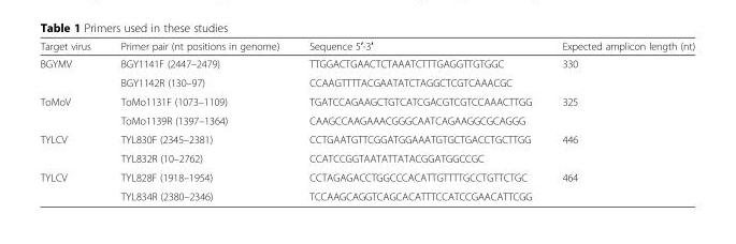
<table><thead><tr><td>Target virus</td><td>Primer pair (nt positions in genome)</td><td>Sequence 5′-3′</td><td>Expected amplicon length (nt)</td></tr></thead><tbody><tr><td rowspan="2">BGYMV</td><td>BGY1141F (2447–2479)</td><td>TTGGACTGAACTCTAAATCTTTGAGGTTGTGGC</td><td rowspan="2">330</td></tr><tr><td>BGY1142R (130–97)</td><td>CCAAGTTTTACGAATATCTAGGCTCGTCAAACGC</td></tr><tr><td rowspan="2">ToMoV</td><td>ToMo1131F (1073–1109)</td><td>TGATCCAGAAGCTGTCATCGACGTCGTCCAAACTTGG</td><td rowspan="2">325</td></tr><tr><td>ToMo1139R (1397–1364)</td><td>CAAGCCAAGAAACGGGCAATCAGAAGGCGCAGGG</td></tr><tr><td rowspan="2">TYLCV</td><td>TYL830F (2345–2381)</td><td>CCTGAATGTTCGGATGGAAATGTGCTGACCTGCTTGG</td><td rowspan="2">446</td></tr><tr><td>TYL832R (10–2762)</td><td>CCATCCGGTAATATTATACGGATGGCCGC</td></tr><tr><td rowspan="2">TYLCV</td><td>TYL828F (1918–1954)</td><td>CCTAGAGACCTGGCCCACATTGTTTTGCCTGTTCTGC</td><td rowspan="2">464</td></tr><tr><td>TYL834R (2380–2346)</td><td>TCCAAGCAGGTCAGCACATTTCCATCCGAACATTCGG</td></tr></tbody></table>